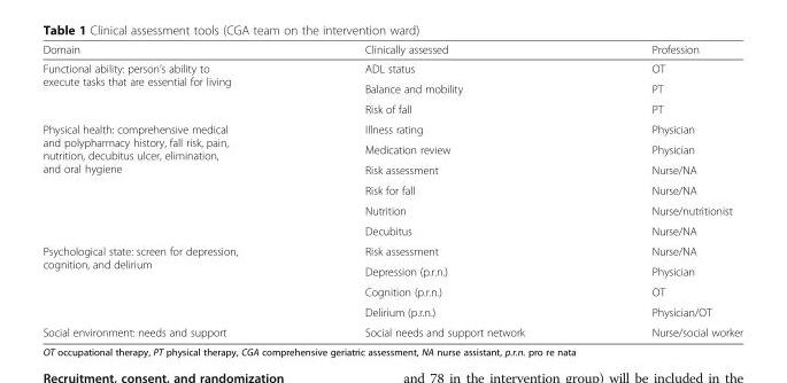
<table><thead><tr><td>Domain</td><td>Clinically assessed</td><td>Profession</td></tr></thead><tbody><tr><td rowspan="3">Functional ability: person’s ability to execute tasks that are essential for living</td><td>ADL status</td><td>OT</td></tr><tr><td>Balance and mobility</td><td>PT</td></tr><tr><td>Risk of fall</td><td>PT</td></tr><tr><td rowspan="6">Physical health: comprehensive medical and polypharmacy history, fall risk, pain, nutrition, decubitus ulcer, elimination, and oral hygiene</td><td>Illness rating</td><td>Physician</td></tr><tr><td>Medication review</td><td>Physician</td></tr><tr><td>Risk assessment</td><td>Nurse/NA</td></tr><tr><td>Risk for fall</td><td>Nurse/NA</td></tr><tr><td>Nutrition</td><td>Nurse/nutritionist</td></tr><tr><td>Decubitus</td><td>Nurse/NA</td></tr><tr><td rowspan="4">Psychological state: screen for depression, cognition, and delirium</td><td>Risk assessment</td><td>Nurse/NA</td></tr><tr><td>Depression (p.r.n.)</td><td>Physician</td></tr><tr><td>Cognition (p.r.n.)</td><td>OT</td></tr><tr><td>Delirium (p.r.n.)</td><td>Physician/OT</td></tr><tr><td>Social environment: needs and support</td><td>Social needs and support network</td><td>Nurse/social worker</td></tr></tbody></table>